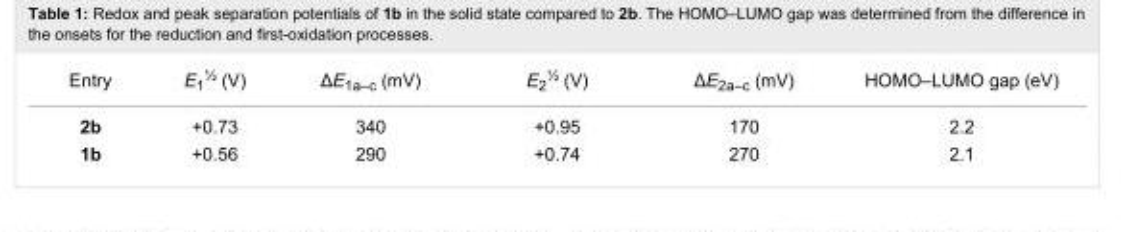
<table><tbody><tr><td>Entry</td><td>E<sub>1</sub><sup>½</sup> (V)</td><td>ΔE<sub>1a–c</sub> (mV)</td><td>E<sub>2</sub><sup>½</sup> (V)</td><td>ΔE<sub>2a–c</sub> (mV)</td><td>HOMO–LUMO gap (eV)</td></tr><tr><td>2b</td><td>+0.73</td><td>340</td><td>+0.95</td><td>170</td><td>2.2</td></tr><tr><td>1b</td><td>+0.56</td><td>290</td><td>+0.74</td><td>270</td><td>2.1</td></tr></tbody></table>